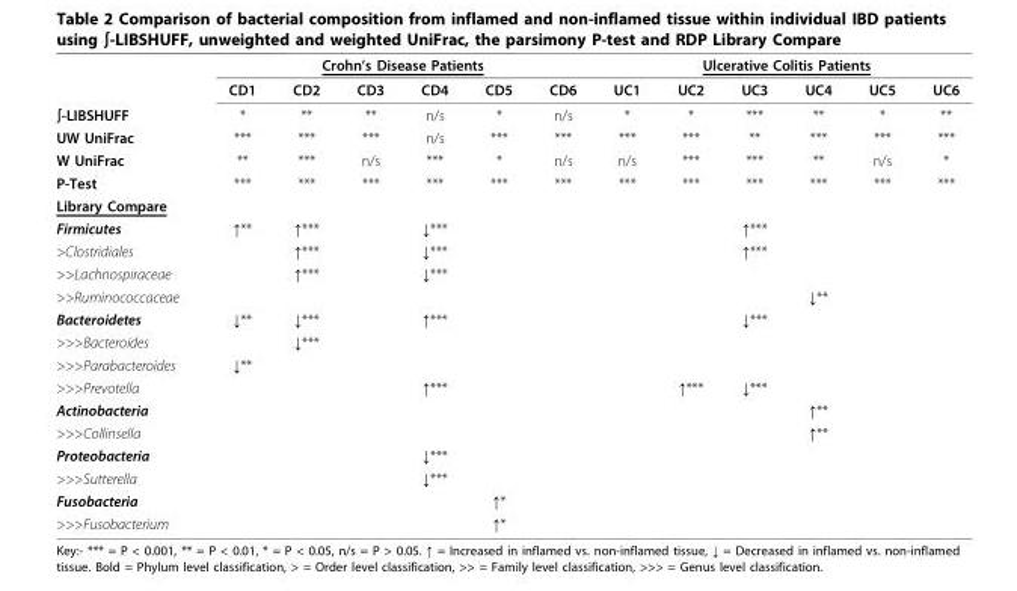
<table><thead><tr><td rowspan="2"></td><td colspan="6">Crohn’s Disease Patients</td><td colspan="6">Ulcerative Colitis Patients</td></tr><tr><td>CD1</td><td>CD2</td><td>CD3</td><td>CD4</td><td>CD5</td><td>CD6</td><td>UC1</td><td>UC2</td><td>UC3</td><td>UC4</td><td>UC5</td><td>UC6</td></tr></thead><tbody><tr><td>∫-LIBSHUFF</td><td>*</td><td>**</td><td>**</td><td>n/s</td><td>*</td><td>n/s</td><td>*</td><td>*</td><td>***</td><td>**</td><td>*</td><td>**</td></tr><tr><td>UW UniFrac</td><td>***</td><td>***</td><td>***</td><td>n/s</td><td>***</td><td>***</td><td>***</td><td>***</td><td>**</td><td>***</td><td>***</td><td>***</td></tr><tr><td>W UniFrac</td><td>**</td><td>***</td><td>n/s</td><td>***</td><td>*</td><td>n/s</td><td>n/s</td><td>***</td><td>***</td><td>**</td><td>n/s</td><td>*</td></tr><tr><td>P-Test</td><td>***</td><td>***</td><td>***</td><td>***</td><td>***</td><td>***</td><td>***</td><td>***</td><td>***</td><td>***</td><td>***</td><td>***</td></tr><tr><td colspan="13">Library Compare</td></tr><tr><td>Firmicutes</td><td>↑**</td><td>↑***</td><td></td><td>↓***</td><td></td><td></td><td></td><td></td><td>↑***</td><td></td><td></td><td></td></tr><tr><td>&gt;Clostridiales</td><td></td><td>↑***</td><td></td><td>↓***</td><td></td><td></td><td></td><td></td><td>↑***</td><td></td><td></td><td></td></tr><tr><td>&gt;&gt;Lachnospiraceae</td><td></td><td>↑***</td><td></td><td>↓***</td><td></td><td></td><td></td><td></td><td></td><td></td><td></td><td></td></tr><tr><td>&gt;&gt;Ruminococcaceae</td><td></td><td></td><td></td><td></td><td></td><td></td><td></td><td></td><td></td><td>↓**</td><td></td><td></td></tr><tr><td>Bacteroidetes</td><td>↓**</td><td>↓***</td><td></td><td>↑***</td><td></td><td></td><td></td><td></td><td>↓***</td><td></td><td></td><td></td></tr><tr><td>&gt;&gt;&gt;Bacteroides</td><td></td><td>↓***</td><td></td><td></td><td></td><td></td><td></td><td></td><td></td><td></td><td></td><td></td></tr><tr><td>&gt;&gt;&gt;Parabacteroides</td><td>↓**</td><td></td><td></td><td></td><td></td><td></td><td></td><td></td><td></td><td></td><td></td><td></td></tr><tr><td>&gt;&gt;&gt;Prevotella</td><td></td><td></td><td></td><td>↑***</td><td></td><td></td><td></td><td>↑***</td><td>↓***</td><td></td><td></td><td></td></tr><tr><td>Actinobacteria</td><td></td><td></td><td></td><td></td><td></td><td></td><td></td><td></td><td></td><td>↑**</td><td></td><td></td></tr><tr><td>&gt;&gt;&gt;Collinsella</td><td></td><td></td><td></td><td></td><td></td><td></td><td></td><td></td><td></td><td>↑**</td><td></td><td></td></tr><tr><td>Proteobacteria</td><td></td><td></td><td></td><td>↓***</td><td></td><td></td><td></td><td></td><td></td><td></td><td></td><td></td></tr><tr><td>&gt;&gt;&gt;Sutterella</td><td></td><td></td><td></td><td>↓***</td><td></td><td></td><td></td><td></td><td></td><td></td><td></td><td></td></tr><tr><td>Fusobacteria</td><td></td><td></td><td></td><td></td><td>↑*</td><td></td><td></td><td></td><td></td><td></td><td></td><td></td></tr><tr><td>&gt;&gt;&gt;Fusobacterium</td><td></td><td></td><td></td><td></td><td>↑*</td><td></td><td></td><td></td><td></td><td></td><td></td><td></td></tr></tbody></table>